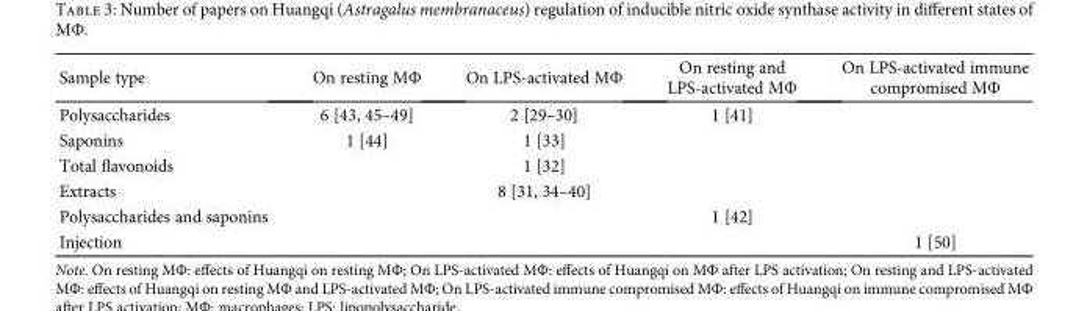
<table><thead><tr><td>Sample type</td><td>On resting MΦ</td><td>On LPS-activated MΦ</td><td>On resting and LPS-activated MΦ</td><td>On LPS-activated immune compromised MΦ</td></tr></thead><tbody><tr><td>Polysaccharides</td><td>6 [43, 45–49]</td><td>2 [29–30]</td><td>1 [41]</td><td></td></tr><tr><td>Saponins</td><td>1 [44]</td><td>1 [33]</td><td></td><td></td></tr><tr><td>Total flavonoids</td><td></td><td>1 [32]</td><td></td><td></td></tr><tr><td>Extracts</td><td></td><td>8 [31, 34–40]</td><td></td><td></td></tr><tr><td>Polysaccharides and saponins</td><td></td><td></td><td>1 [42]</td><td></td></tr><tr><td>Injection</td><td></td><td></td><td></td><td>1 [50]</td></tr></tbody></table>